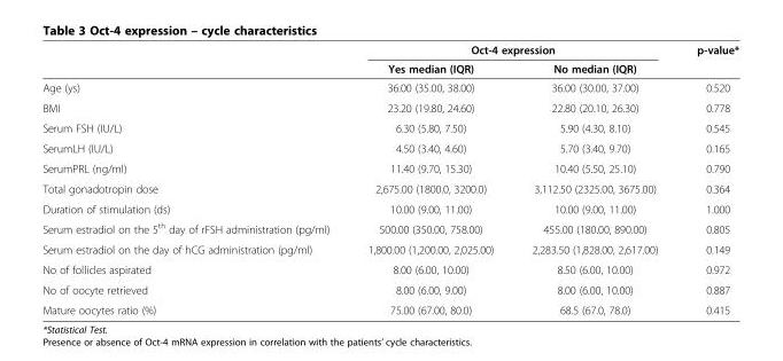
<table><thead><tr><td rowspan="2"></td><td colspan="2">Οct-4 expression</td><td rowspan="2">p-value*</td></tr><tr><td>Yes median (IQR)</td><td>No median (IQR)</td></tr></thead><tbody><tr><td>Age (ys)</td><td>36.00 (35.00, 38.00)</td><td>36.00 (30.00, 37.00)</td><td>0.520</td></tr><tr><td>BMI</td><td>23.20 (19.80, 24.60)</td><td>22.80 (20.10, 26.30)</td><td>0.778</td></tr><tr><td>Serum FSH (IU/L)</td><td>6.30 (5.80, 7.50)</td><td>5.90 (4.30, 8.10)</td><td>0.545</td></tr><tr><td>SerumLH (IU/L)</td><td>4.50 (3.40, 4.60)</td><td>5.70 (3.40, 9.70)</td><td>0.165</td></tr><tr><td>SerumPRL (ng/ml)</td><td>11.40 (9.70, 15.30)</td><td>10.40 (5.50, 25.10)</td><td>0.790</td></tr><tr><td>Total gonadotropin dose</td><td>2,675.00 (1800.0, 3200.0)</td><td>3,112.50 (2325.00, 3675.00)</td><td>0.364</td></tr><tr><td>Duration of stimulation (ds)</td><td>10.00 (9.00, 11.00)</td><td>10.00 (9.00, 11.00)</td><td>1.000</td></tr><tr><td>Serum estradiol on the 5<sup>th</sup> day of rFSH administration (pg/ml)</td><td>500.00 (350.00, 758.00)</td><td>455.00 (180.00, 890.00)</td><td>0.805</td></tr><tr><td>Serum estradiol on the day of hCG administration (pg/ml)</td><td>1,800.00 (1,200.00, 2,025.00)</td><td>2,283.50 (1,828.00, 2,617.00)</td><td>0.149</td></tr><tr><td>No of follicles aspirated</td><td>8.00 (6.00, 10.00)</td><td>8.50 (6.00, 10.00)</td><td>0.972</td></tr><tr><td>No of oocyte retrieved</td><td>8.00 (6.00, 9.00)</td><td>8.00 (6.00, 10.00)</td><td>0.887</td></tr><tr><td>Mature oocytes ratio (%)</td><td>75.00 (67.00, 80.0)</td><td>68.5 (67.0, 78.0)</td><td>0.415</td></tr></tbody></table>